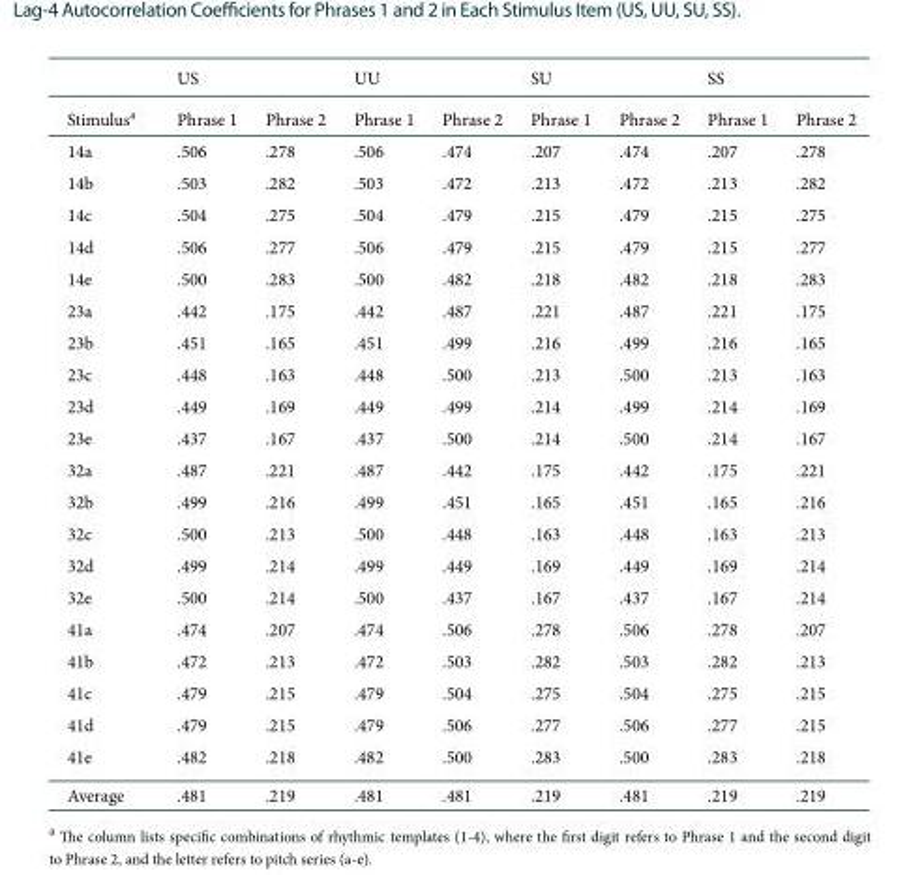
<table><thead><tr><td></td><td>US</td><td></td><td>UU</td><td></td><td>SU</td><td></td><td>SS</td><td></td></tr></thead><tbody><tr><td>Stimulus<sup>a</sup></td><td>Phrase 1</td><td>Phrase 2</td><td>Phrase 1</td><td>Phrase 2</td><td>Phrase 1</td><td>Phrase 2</td><td>Phrase 1</td><td>Phrase 2</td></tr><tr><td>14a</td><td>.506</td><td>.278</td><td>.506</td><td>.474</td><td>.207</td><td>.474</td><td>.207</td><td>.278</td></tr><tr><td>14b</td><td>.503</td><td>.282</td><td>.503</td><td>.472</td><td>.213</td><td>.472</td><td>.213</td><td>.282</td></tr><tr><td>14c</td><td>.504</td><td>.275</td><td>.504</td><td>.479</td><td>.215</td><td>.479</td><td>.215</td><td>.275</td></tr><tr><td>14d</td><td>.506</td><td>.277</td><td>.506</td><td>.479</td><td>.215</td><td>.479</td><td>.215</td><td>.277</td></tr><tr><td>14e</td><td>.500</td><td>.283</td><td>.500</td><td>.482</td><td>.218</td><td>.482</td><td>.218</td><td>.283</td></tr><tr><td>23a</td><td>.442</td><td>.175</td><td>.442</td><td>.487</td><td>.221</td><td>.487</td><td>.221</td><td>.175</td></tr><tr><td>23b</td><td>.451</td><td>.165</td><td>.451</td><td>.499</td><td>.216</td><td>.499</td><td>.216</td><td>.165</td></tr><tr><td>23c</td><td>.448</td><td>.163</td><td>.448</td><td>.500</td><td>.213</td><td>.500</td><td>.213</td><td>.163</td></tr><tr><td>23d</td><td>.449</td><td>.169</td><td>.449</td><td>.499</td><td>.214</td><td>.499</td><td>.214</td><td>.169</td></tr><tr><td>23e</td><td>.437</td><td>.167</td><td>.437</td><td>.500</td><td>.214</td><td>.500</td><td>.214</td><td>.167</td></tr><tr><td>32a</td><td>.487</td><td>.221</td><td>.487</td><td>.442</td><td>.175</td><td>.442</td><td>.175</td><td>.221</td></tr><tr><td>32b</td><td>.499</td><td>.216</td><td>.499</td><td>.451</td><td>.165</td><td>.451</td><td>.165</td><td>.216</td></tr><tr><td>32c</td><td>.500</td><td>.213</td><td>.500</td><td>.448</td><td>.163</td><td>.448</td><td>.163</td><td>.213</td></tr><tr><td>32d</td><td>.499</td><td>.214</td><td>.499</td><td>.449</td><td>.169</td><td>.449</td><td>.169</td><td>.214</td></tr><tr><td>32e</td><td>.500</td><td>.214</td><td>.500</td><td>.437</td><td>.167</td><td>.437</td><td>.167</td><td>.214</td></tr><tr><td>41a</td><td>.474</td><td>.207</td><td>.474</td><td>.506</td><td>.278</td><td>.506</td><td>.278</td><td>.207</td></tr><tr><td>41b</td><td>.472</td><td>.213</td><td>.472</td><td>.503</td><td>.282</td><td>.503</td><td>.282</td><td>.213</td></tr><tr><td>41c</td><td>.479</td><td>.215</td><td>.479</td><td>.504</td><td>.275</td><td>.504</td><td>.275</td><td>.215</td></tr><tr><td>41d</td><td>.479</td><td>.215</td><td>.479</td><td>.506</td><td>.277</td><td>.506</td><td>.277</td><td>.215</td></tr><tr><td>41e</td><td>.482</td><td>.218</td><td>.482</td><td>.500</td><td>.283</td><td>.500</td><td>.283</td><td>.218</td></tr><tr><td>Average</td><td>.481</td><td>.219</td><td>.481</td><td>.481</td><td>.219</td><td>.481</td><td>.219</td><td>.219</td></tr></tbody></table>